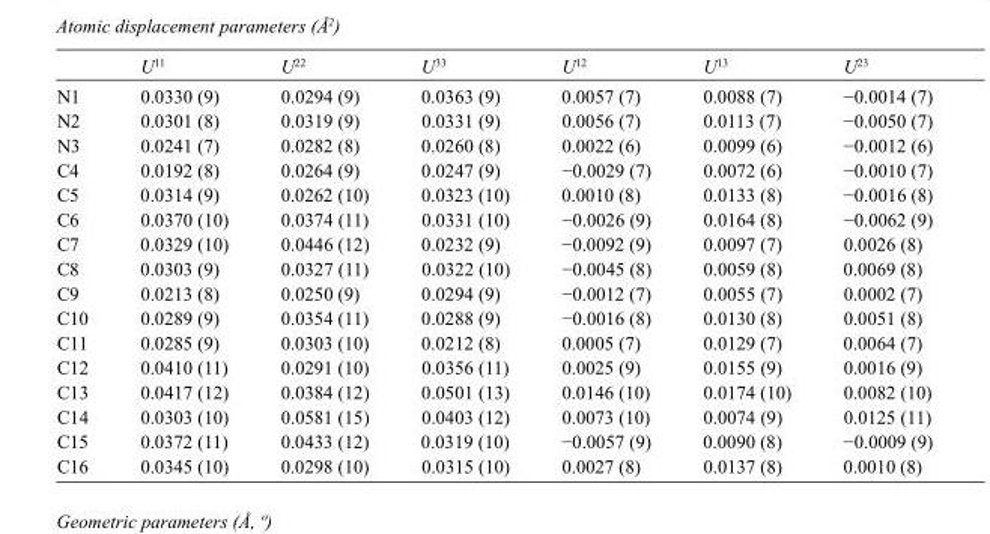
<table><thead><tr><td></td><td>U<sup>11</sup></td><td>U<sup>22</sup></td><td>U<sup>33</sup></td><td>U<sup>12</sup></td><td>U<sup>13</sup></td><td>U<sup>23</sup></td></tr></thead><tbody><tr><td>N1</td><td>0.0330 (9)</td><td>0.0294 (9)</td><td>0.0363 (9)</td><td>0.0057 (7)</td><td>0.0088 (7)</td><td>−0.0014 (7)</td></tr><tr><td>N2</td><td>0.0301 (8)</td><td>0.0319 (9)</td><td>0.0331 (9)</td><td>0.0056 (7)</td><td>0.0113 (7)</td><td>−0.0050 (7)</td></tr><tr><td>N3</td><td>0.0241 (7)</td><td>0.0282 (8)</td><td>0.0260 (8)</td><td>0.0022 (6)</td><td>0.0099 (6)</td><td>−0.0012 (6)</td></tr><tr><td>C4</td><td>0.0192 (8)</td><td>0.0264 (9)</td><td>0.0247 (9)</td><td>−0.0029 (7)</td><td>0.0072 (6)</td><td>−0.0010 (7)</td></tr><tr><td>C5</td><td>0.0314 (9)</td><td>0.0262 (10)</td><td>0.0323 (10)</td><td>0.0010 (8)</td><td>0.0133 (8)</td><td>−0.0016 (8)</td></tr><tr><td>C6</td><td>0.0370 (10)</td><td>0.0374 (11)</td><td>0.0331 (10)</td><td>−0.0026 (9)</td><td>0.0164 (8)</td><td>−0.0062 (9)</td></tr><tr><td>C7</td><td>0.0329 (10)</td><td>0.0446 (12)</td><td>0.0232 (9)</td><td>−0.0092 (9)</td><td>0.0097 (7)</td><td>0.0026 (8)</td></tr><tr><td>C8</td><td>0.0303 (9)</td><td>0.0327 (11)</td><td>0.0322 (10)</td><td>−0.0045 (8)</td><td>0.0059 (8)</td><td>0.0069 (8)</td></tr><tr><td>C9</td><td>0.0213 (8)</td><td>0.0250 (9)</td><td>0.0294 (9)</td><td>−0.0012 (7)</td><td>0.0055 (7)</td><td>0.0002 (7)</td></tr><tr><td>C10</td><td>0.0289 (9)</td><td>0.0354 (11)</td><td>0.0288 (9)</td><td>−0.0016 (8)</td><td>0.0130 (8)</td><td>0.0051 (8)</td></tr><tr><td>C11</td><td>0.0285 (9)</td><td>0.0303 (10)</td><td>0.0212 (8)</td><td>0.0005 (7)</td><td>0.0129 (7)</td><td>0.0064 (7)</td></tr><tr><td>C12</td><td>0.0410 (11)</td><td>0.0291 (10)</td><td>0.0356 (11)</td><td>0.0025 (9)</td><td>0.0155 (9)</td><td>0.0016 (9)</td></tr><tr><td>C13</td><td>0.0417 (12)</td><td>0.0384 (12)</td><td>0.0501 (13)</td><td>0.0146 (10)</td><td>0.0174 (10)</td><td>0.0082 (10)</td></tr><tr><td>C14</td><td>0.0303 (10)</td><td>0.0581 (15)</td><td>0.0403 (12)</td><td>0.0073 (10)</td><td>0.0074 (9)</td><td>0.0125 (11)</td></tr><tr><td>C15</td><td>0.0372 (11)</td><td>0.0433 (12)</td><td>0.0319 (10)</td><td>−0.0057 (9)</td><td>0.0090 (8)</td><td>−0.0009 (9)</td></tr><tr><td>C16</td><td>0.0345 (10)</td><td>0.0298 (10)</td><td>0.0315 (10)</td><td>0.0027 (8)</td><td>0.0137 (8)</td><td>0.0010 (8)</td></tr></tbody></table>